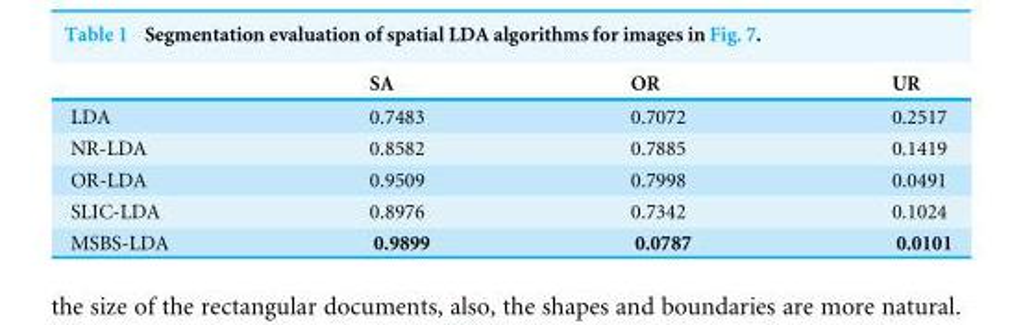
<table><thead><tr><td></td><td>SA</td><td>OR</td><td>UR</td></tr></thead><tbody><tr><td>LDA</td><td>0.7483</td><td>0.7072</td><td>0.2517</td></tr><tr><td>NR-LDA</td><td>0.8582</td><td>0.7885</td><td>0.1419</td></tr><tr><td>OR-LDA</td><td>0.9509</td><td>0.7998</td><td>0.0491</td></tr><tr><td>SLIC-LDA</td><td>0.8976</td><td>0.7342</td><td>0.1024</td></tr><tr><td>MSBS-LDA</td><td>0.9899</td><td>0.0787</td><td>0.0101</td></tr></tbody></table>